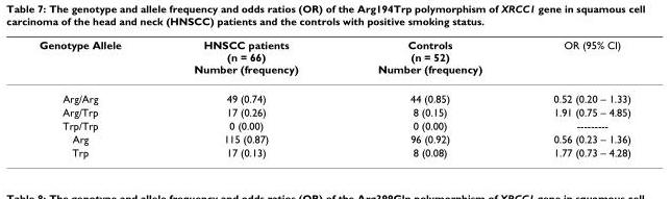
<table><thead><tr><td>Genotype Allele</td><td>HNSCC patients (n = 66) Number (frequency)</td><td>Controls (n = 52) Number (frequency)</td><td>OR (95% CI)</td></tr></thead><tbody><tr><td>Arg/Arg</td><td>49 (0.74)</td><td>44 (0.85)</td><td>0.52 (0.20 – 1.33)</td></tr><tr><td>Arg/Trp</td><td>17 (0.26)</td><td>8 (0.15)</td><td>1.91 (0.75 – 4.85)</td></tr><tr><td>Trp/Trp</td><td>0 (0.00)</td><td>0 (0.00)</td><td>---------</td></tr><tr><td>Arg</td><td>115 (0.87)</td><td>96 (0.92)</td><td>0.56 (0.23 – 1.36)</td></tr><tr><td>Trp</td><td>17 (0.13)</td><td>8 (0.08)</td><td>1.77 (0.73 – 4.28)</td></tr></tbody></table>